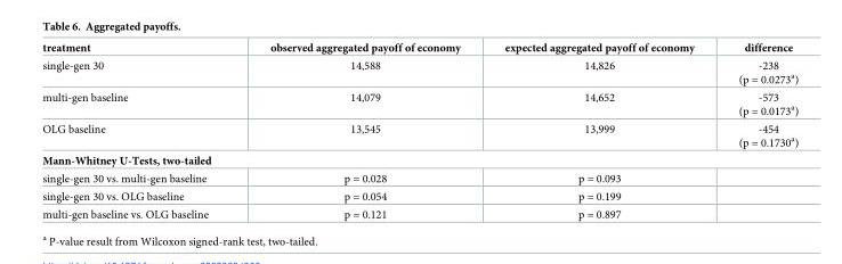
<table><thead><tr><td>treatment</td><td>observed aggregated payoff of economy</td><td>expected aggregated payoff of economy</td><td>difference</td></tr></thead><tbody><tr><td>single-gen 30</td><td>14,588</td><td>14,826</td><td>-238 (p = 0.0273<sup>a</sup>)</td></tr><tr><td>multi-gen baseline</td><td>14,079</td><td>14,652</td><td>-573 (p = 0.0173<sup>a</sup>)</td></tr><tr><td>OLG baseline</td><td>13,545</td><td>13,999</td><td>-454 (p = 0.1730<sup>a</sup>)</td></tr><tr><td colspan="4">Mann-Whitney U-Tests, two-tailed</td></tr><tr><td>single-gen 30 vs. multi-gen baseline</td><td>p = 0.028</td><td>p = 0.093</td><td></td></tr><tr><td>single-gen 30 vs. OLG baseline</td><td>p = 0.054</td><td>p = 0.199</td><td></td></tr><tr><td>multi-gen baseline vs. OLG baseline</td><td>p = 0.121</td><td>p = 0.897</td><td></td></tr></tbody></table>